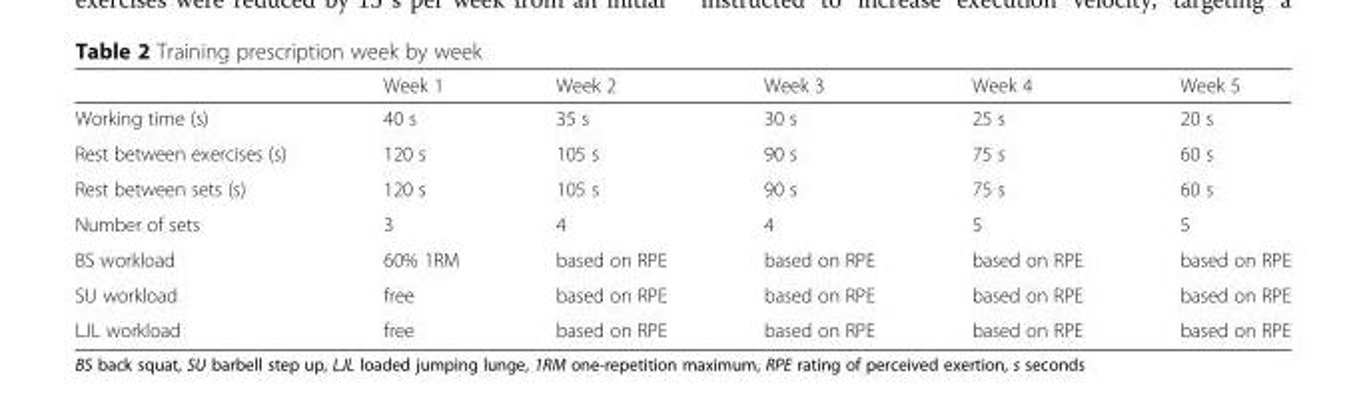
<table><thead><tr><td></td><td>Week 1</td><td>Week 2</td><td>Week 3</td><td>Week 4</td><td>Week 5</td></tr></thead><tbody><tr><td>Working time (s)</td><td>40 s</td><td>35 s</td><td>30 s</td><td>25 s</td><td>20 s</td></tr><tr><td>Rest between exercises (s)</td><td>120 s</td><td>105 s</td><td>90 s</td><td>75 s</td><td>60 s</td></tr><tr><td>Rest between sets (s)</td><td>120 s</td><td>105 s</td><td>90 s</td><td>75 s</td><td>60 s</td></tr><tr><td>Number of sets</td><td>3</td><td>4</td><td>4</td><td>5</td><td>5</td></tr><tr><td>BS workload</td><td>60% 1RM</td><td>based on RPE</td><td>based on RPE</td><td>based on RPE</td><td>based on RPE</td></tr><tr><td>SU workload</td><td>free</td><td>based on RPE</td><td>based on RPE</td><td>based on RPE</td><td>based on RPE</td></tr><tr><td>LJL workload</td><td>free</td><td>based on RPE</td><td>based on RPE</td><td>based on RPE</td><td>based on RPE</td></tr></tbody></table>